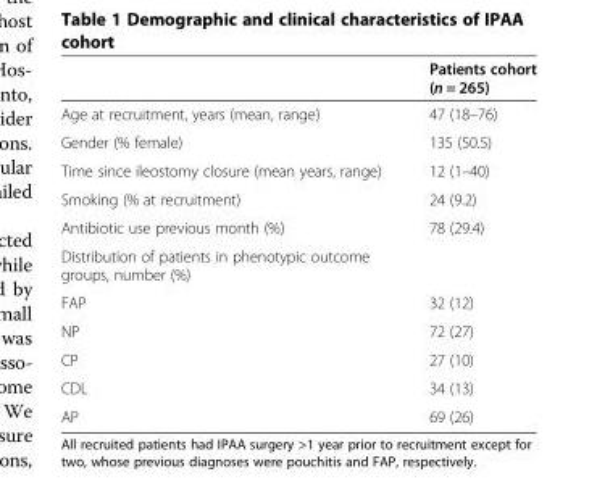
<table><thead><tr><td></td><td>Patients cohort (n = 265)</td></tr></thead><tbody><tr><td>Age at recruitment, years (mean, range)</td><td>47 (18–76)</td></tr><tr><td>Gender (% female)</td><td>135 (50.5)</td></tr><tr><td>Time since ileostomy closure (mean years, range)</td><td>12 (1–40)</td></tr><tr><td>Smoking (% at recruitment)</td><td>24 (9.2)</td></tr><tr><td>Antibiotic use previous month (%)</td><td>78 (29.4)</td></tr><tr><td colspan="2">Distribution of patients in phenotypic outcome groups, number (%)</td></tr><tr><td>FAP</td><td>32 (12)</td></tr><tr><td>NP</td><td>72 (27)</td></tr><tr><td>CP</td><td>27 (10)</td></tr><tr><td>CDL</td><td>34 (13)</td></tr><tr><td>AP</td><td>69 (26)</td></tr></tbody></table>